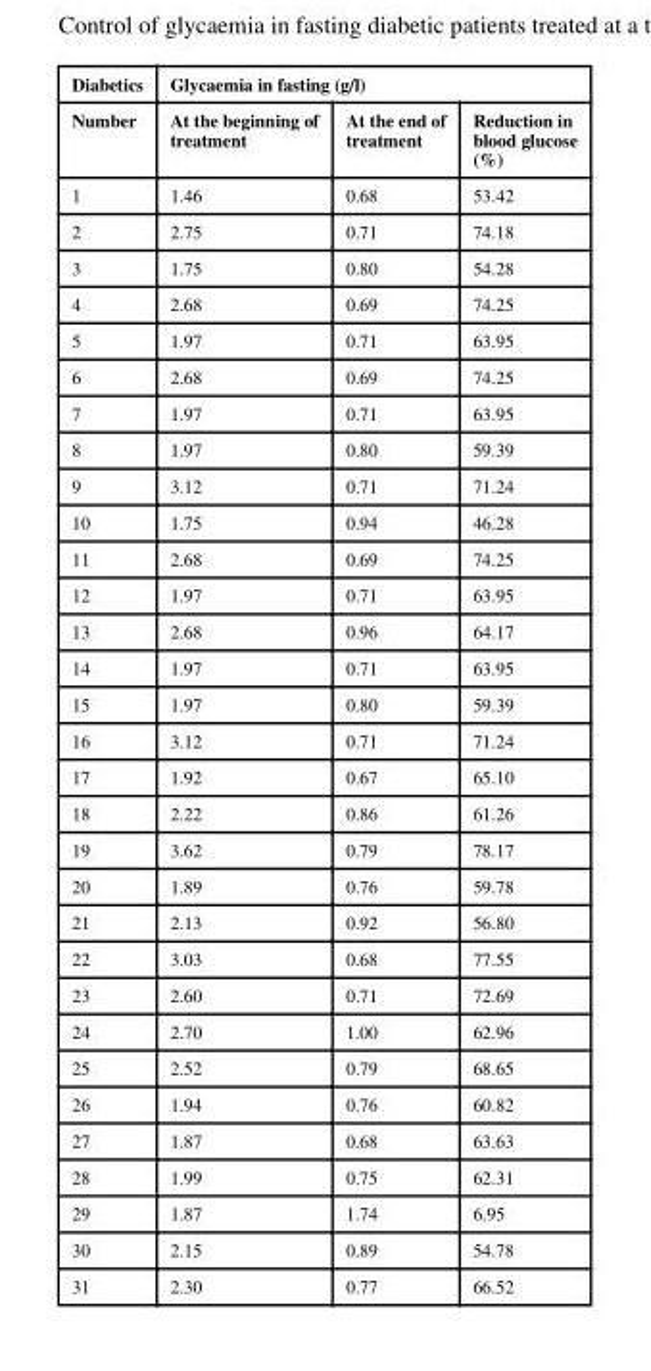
<table><thead><tr><td rowspan="2">Diabetics Number</td><td colspan="3">Glycaemia in fasting (g/l)</td></tr><tr><td>At the beginning of treatment</td><td>At the end of treatment</td><td>Reduction in blood glucose (%)</td></tr></thead><tbody><tr><td>1</td><td>1.46</td><td>0.68</td><td>53.42</td></tr><tr><td>2</td><td>2.75</td><td>0.71</td><td>74.18</td></tr><tr><td>3</td><td>1.75</td><td>0.80</td><td>54.28</td></tr><tr><td>4</td><td>2.68</td><td>0.69</td><td>74.25</td></tr><tr><td>5</td><td>1.97</td><td>0.71</td><td>63.95</td></tr><tr><td>6</td><td>2.68</td><td>0.69</td><td>74.25</td></tr><tr><td>7</td><td>1.97</td><td>0.71</td><td>63.95</td></tr><tr><td>8</td><td>1.97</td><td>0.80</td><td>59.39</td></tr><tr><td>9</td><td>3.12</td><td>0.71</td><td>71.24</td></tr><tr><td>10</td><td>1.75</td><td>0.94</td><td>46.28</td></tr><tr><td>11</td><td>2.68</td><td>0.69</td><td>74.25</td></tr><tr><td>12</td><td>1.97</td><td>0.71</td><td>63.95</td></tr><tr><td>13</td><td>2.68</td><td>0.96</td><td>64.17</td></tr><tr><td>14</td><td>1.97</td><td>0.71</td><td>63.95</td></tr><tr><td>15</td><td>1.97</td><td>0.80</td><td>59.39</td></tr><tr><td>16</td><td>3.12</td><td>0.71</td><td>71.24</td></tr><tr><td>17</td><td>1.92</td><td>0.67</td><td>65.10</td></tr><tr><td>18</td><td>2.22</td><td>0.86</td><td>61.26</td></tr><tr><td>19</td><td>3.62</td><td>0.79</td><td>78.17</td></tr><tr><td>20</td><td>1.89</td><td>0.76</td><td>59.78</td></tr><tr><td>21</td><td>2.13</td><td>0.92</td><td>56.80</td></tr><tr><td>22</td><td>3.03</td><td>0.68</td><td>77.55</td></tr><tr><td>23</td><td>2.60</td><td>0.71</td><td>72.69</td></tr><tr><td>24</td><td>2.70</td><td>1.00</td><td>62.96</td></tr><tr><td>25</td><td>2.52</td><td>0.79</td><td>68.65</td></tr><tr><td>26</td><td>1.94</td><td>0.76</td><td>60.82</td></tr><tr><td>27</td><td>1.87</td><td>0.68</td><td>63.63</td></tr><tr><td>28</td><td>1.99</td><td>0.75</td><td>62.31</td></tr><tr><td>29</td><td>1.87</td><td>1.74</td><td>6.95</td></tr><tr><td>30</td><td>2.15</td><td>0.89</td><td>54.78</td></tr><tr><td>31</td><td>2.30</td><td>0.77</td><td>66.52</td></tr></tbody></table>